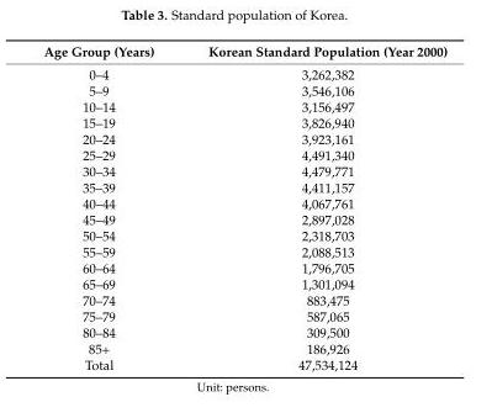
<table><thead><tr><td>Age Group (Years)</td><td>Korean Standard Population (Year 2000)</td></tr></thead><tbody><tr><td>0–4</td><td>3,262,382</td></tr><tr><td>5–9</td><td>3,546,106</td></tr><tr><td>10–14</td><td>3,156,497</td></tr><tr><td>15–19</td><td>3,826,940</td></tr><tr><td>20–24</td><td>3,923,161</td></tr><tr><td>25–29</td><td>4,491,340</td></tr><tr><td>30–34</td><td>4,479,771</td></tr><tr><td>35–39</td><td>4,411,157</td></tr><tr><td>40–44</td><td>4,067,761</td></tr><tr><td>45–49</td><td>2,897,028</td></tr><tr><td>50–54</td><td>2,318,703</td></tr><tr><td>55–59</td><td>2,088,513</td></tr><tr><td>60–64</td><td>1,796,705</td></tr><tr><td>65–69</td><td>1,301,094</td></tr><tr><td>70–74</td><td>883,475</td></tr><tr><td>75–79</td><td>587,065</td></tr><tr><td>80–84</td><td>309,500</td></tr><tr><td>85+</td><td>186,926</td></tr><tr><td>Total</td><td>47,534,124</td></tr></tbody></table>